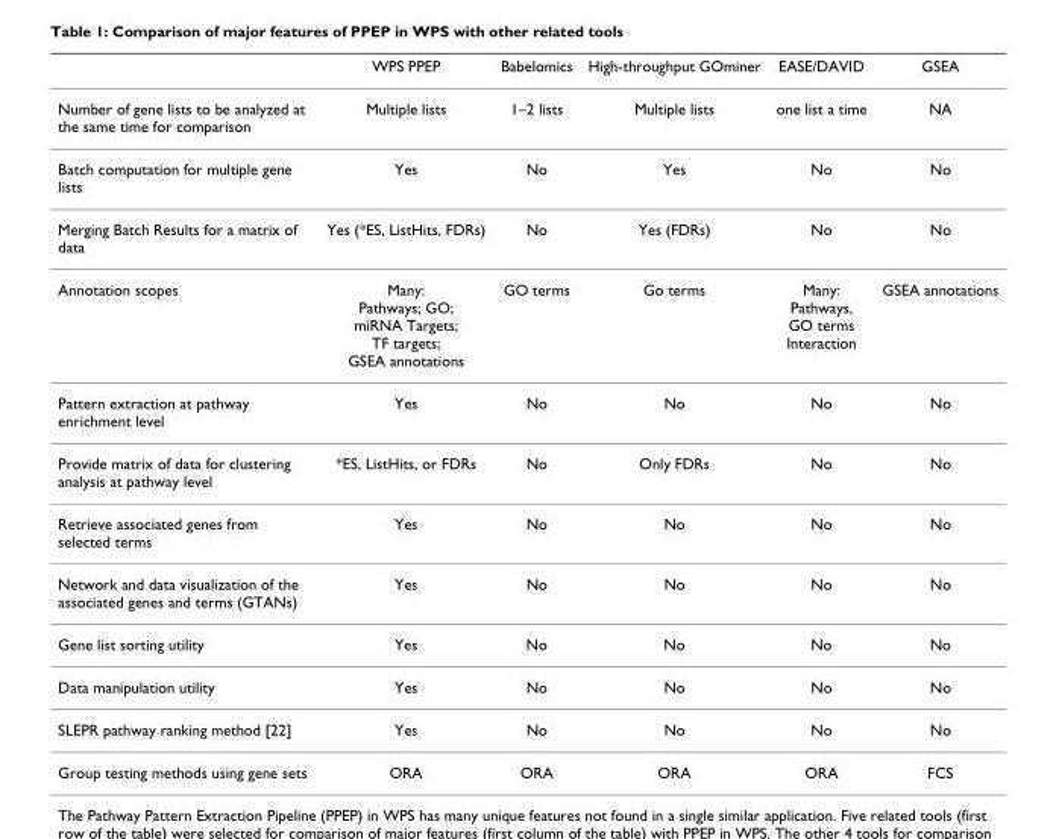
<table><thead><tr><td></td><td>WPS PPEP</td><td>Babelomics</td><td>High-throughput GOminer</td><td>EASE/DAVID</td><td>GSEA</td></tr></thead><tbody><tr><td>Number of gene lists to be analyzed at the same time for comparison</td><td>Multiple lists</td><td>1–2 lists</td><td>Multiple lists</td><td>one list a time</td><td>NA</td></tr><tr><td>Batch computation for multiple gene lists</td><td>Yes</td><td>No</td><td>Yes</td><td>No</td><td>No</td></tr><tr><td>Merging Batch Results for a matrix of data</td><td>Yes (*ES, ListHits, FDRs)</td><td>No</td><td>Yes (FDRs)</td><td>No</td><td>No</td></tr><tr><td>Annotation scopes</td><td>Many: Pathways; GO; miRNA Targets; TF targets; GSEA annotations</td><td>GO terms</td><td>Go terms</td><td>Many: Pathways, GO terms Interaction</td><td>GSEA annotations</td></tr><tr><td>Pattern extraction at pathway enrichment level</td><td>Yes</td><td>No</td><td>No</td><td>No</td><td>No</td></tr><tr><td>Provide matrix of data for clustering analysis at pathway level</td><td>*ES, ListHits, or FDRs</td><td>No</td><td>Only FDRs</td><td>No</td><td>No</td></tr><tr><td>Retrieve associated genes from selected terms</td><td>Yes</td><td>No</td><td>No</td><td>No</td><td>No</td></tr><tr><td>Network and data visualization of the associated genes and terms (GTANs)</td><td>Yes</td><td>No</td><td>No</td><td>No</td><td>No</td></tr><tr><td>Gene list sorting utility</td><td>Yes</td><td>No</td><td>No</td><td>No</td><td>No</td></tr><tr><td>Data manipulation utility</td><td>Yes</td><td>No</td><td>No</td><td>No</td><td>No</td></tr><tr><td>SLEPR pathway ranking method [22]</td><td>Yes</td><td>No</td><td>No</td><td>No</td><td>No</td></tr><tr><td>Group testing methods using gene sets</td><td>ORA</td><td>ORA</td><td>ORA</td><td>ORA</td><td>FCS</td></tr></tbody></table>